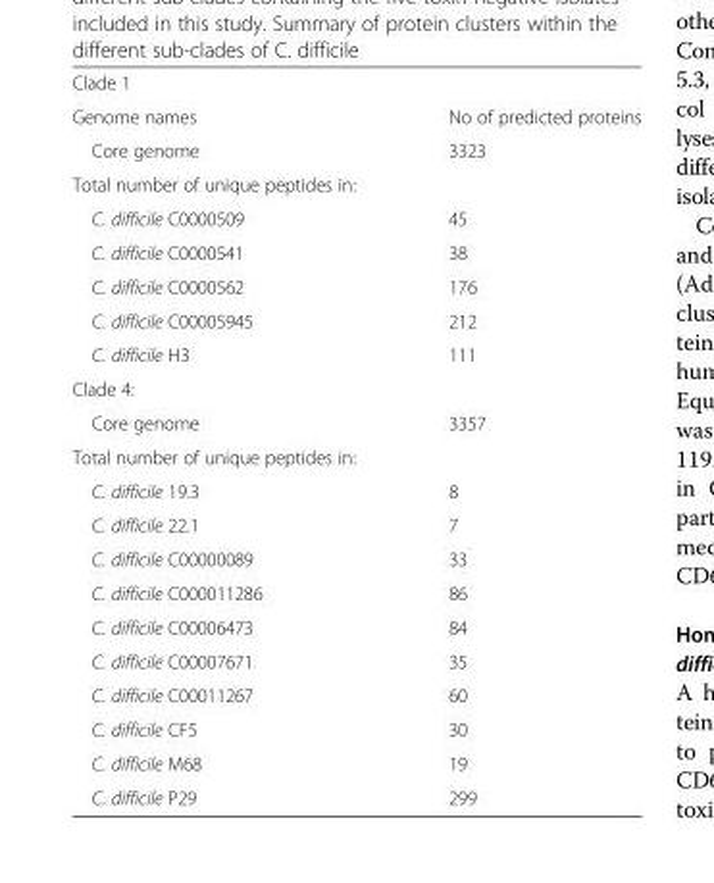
<table><tbody><tr><td colspan="2">Clade 1</td></tr><tr><td>Genome names</td><td>No of predicted proteins</td></tr><tr><td>Core genome</td><td>3323</td></tr><tr><td colspan="2">Total number of unique peptides in:</td></tr><tr><td>C. difficile C0000509</td><td>45</td></tr><tr><td>C. difficile C0000541</td><td>38</td></tr><tr><td>C. difficile C0000562</td><td>176</td></tr><tr><td>C. difficile C00005945</td><td>212</td></tr><tr><td>C. difficile H3</td><td>111</td></tr><tr><td colspan="2">Clade 4:</td></tr><tr><td>Core genome</td><td>3357</td></tr><tr><td colspan="2">Total number of unique peptides in:</td></tr><tr><td>C. difficile 19.3</td><td>8</td></tr><tr><td>C. difficile 22.1</td><td>7</td></tr><tr><td>C. difficile C00000089</td><td>33</td></tr><tr><td>C. difficile C000011286</td><td>86</td></tr><tr><td>C. difficile C00006473</td><td>84</td></tr><tr><td>C. difficile C00007671</td><td>35</td></tr><tr><td>C. difficile C00011267</td><td>60</td></tr><tr><td>C. difficile CF5</td><td>30</td></tr><tr><td>C. difficile M68</td><td>19</td></tr><tr><td>C. difficile P29</td><td>299</td></tr></tbody></table>